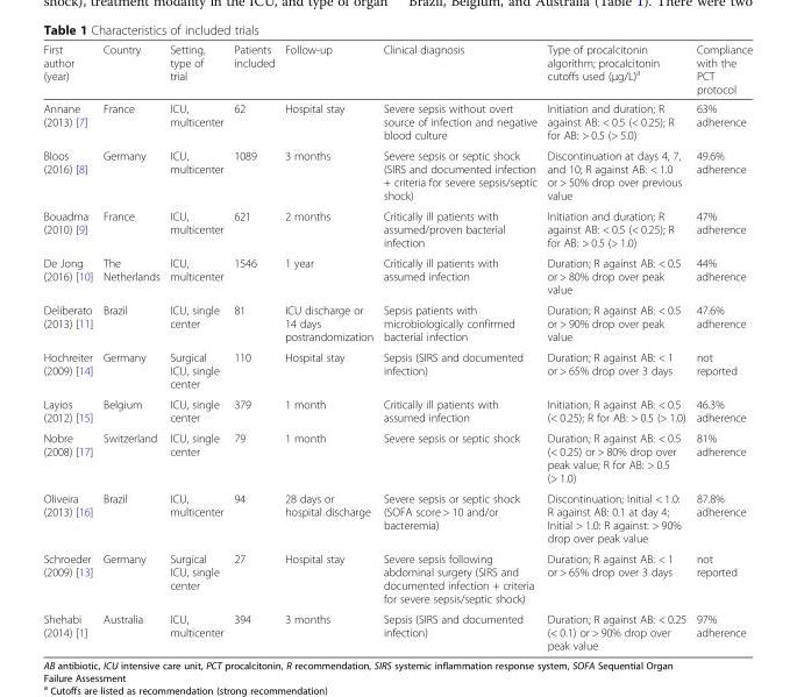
<table><thead><tr><td>First author (year)</td><td>Country</td><td>Setting, type of trial</td><td>Patients included</td><td>Follow-up</td><td>Clinical diagnosis</td><td>Type of procalcitonin algorithm; procalcitonin cutoffs used (μg/L)<sup>a</sup></td><td>Compliance with the PCT protocol</td></tr></thead><tbody><tr><td>Annane (2013) [7]</td><td>France</td><td>ICU, multicenter</td><td>62</td><td>Hospital stay</td><td>Severe sepsis without overt source of infection and negative blood culture</td><td>Initiation and duration; R against AB: &lt; 0.5 (&lt; 0.25); R for AB: &gt; 0.5 (&gt; 5.0)</td><td>63% adherence</td></tr><tr><td>Bloos (2016) [8]</td><td>Germany</td><td>ICU, multicenter</td><td>1089</td><td>3 months</td><td>Severe sepsis or septic shock (SIRS and documented infection + criteria for severe sepsis/septic shock)</td><td>Discontinuation at days 4, 7, and 10; R against AB: &lt; 1.0 or &gt; 50% drop over previous value</td><td>49.6% adherence</td></tr><tr><td>Bouadma (2010) [9]</td><td>France</td><td>ICU, multicenter</td><td>621</td><td>2 months</td><td>Critically ill patients with assumed/proven bacterial infection</td><td>Initiation and duration; R against AB: &lt; 0.5 (&lt; 0.25); R for AB: &gt; 0.5 (&gt; 1.0)</td><td>47% adherence</td></tr><tr><td>De Jong (2016) [10]</td><td>The Netherlands</td><td>ICU, multicenter</td><td>1546</td><td>1 year</td><td>Critically ill patients with assumed infection</td><td>Duration; R against AB: &lt; 0.5 or &gt; 80% drop over peak value</td><td>44% adherence</td></tr><tr><td>Deliberato (2013) [11]</td><td>Brazil</td><td>ICU, single center</td><td>81</td><td>ICU discharge or 14 days postrandomization</td><td>Sepsis patients with microbiologically confirmed bacterial infection</td><td>Duration; R against AB: &lt; 0.5 or &gt; 90% drop over peak value</td><td>47.6% adherence</td></tr><tr><td>Hochreiter (2009) [14]</td><td>Germany</td><td>Surgical ICU, single center</td><td>110</td><td>Hospital stay</td><td>Sepsis (SIRS and documented infection)</td><td>Duration; R against AB: &lt; 1 or &gt; 65% drop over 3 days</td><td>not reported</td></tr><tr><td>Layios (2012) [15]</td><td>Belgium</td><td>ICU, single center</td><td>379</td><td>1 month</td><td>Critically ill patients with assumed infection</td><td>Initiation; R against AB: &lt; 0.5 (&lt; 0.25); R for AB: &gt; 0.5 (&gt; 1.0)</td><td>46.3% adherence</td></tr><tr><td>Nobre (2008) [17]</td><td>Switzerland</td><td>ICU, single center</td><td>79</td><td>1 month</td><td>Severe sepsis or septic shock</td><td>Duration; R against AB: &lt; 0.5 (&lt; 0.25) or &gt; 80% drop over peak value; R for AB: &gt; 0.5 (&gt; 1.0)</td><td>81% adherence</td></tr><tr><td>Oliveira (2013) [16]</td><td>Brazil</td><td>ICU, multicenter</td><td>94</td><td>28 days or hospital discharge</td><td>Severe sepsis or septic shock (SOFA score &gt; 10 and/or bacteremia)</td><td>Discontinuation; Initial &lt; 1.0: R against AB: 0.1 at day 4; Initial &gt; 1.0: R against: &gt; 90% drop over peak value</td><td>87.8% adherence</td></tr><tr><td>Schroeder (2009) [13]</td><td>Germany</td><td>Surgical ICU, single center</td><td>27</td><td>Hospital stay</td><td>Severe sepsis following abdominal surgery (SIRS and documented infection + criteria for severe sepsis/septic shock)</td><td>Duration; R against AB: &lt; 1 or &gt; 65% drop over 3 days</td><td>not reported</td></tr><tr><td>Shehabi (2014) [1]</td><td>Australia</td><td>ICU, multicenter</td><td>394</td><td>3 months</td><td>Sepsis (SIRS and documented infection)</td><td>Duration; R against AB: &lt; 0.25 (&lt; 0.1) or &gt; 90% drop over peak value</td><td>97% adherence</td></tr></tbody></table>